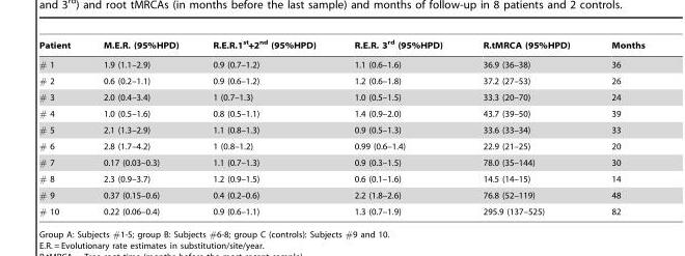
<table><thead><tr><td>Patient</td><td>M.E.R. (95%HPD)</td><td>R.E.R.1<sup>st</sup>+2<sup>nd</sup> (95%HPD)</td><td>R.E.R. 3<sup>rd</sup> (95%HPD)</td><td>R.tMRCA (95%HPD)</td><td>Months</td></tr></thead><tbody><tr><td># 1</td><td>1.9 (1.1–2.9)</td><td>0.9 (0.7–1.2)</td><td>1.1 (0.6–1.6)</td><td>36.9 (36–38)</td><td>36</td></tr><tr><td># 2</td><td>0.6 (0.2–1.1)</td><td>0.9 (0.6–1.2)</td><td>1.2 (0.6–1.8)</td><td>37.2 (27–53)</td><td>26</td></tr><tr><td># 3</td><td>2.0 (0.4–3.4)</td><td>1 (0.7–1.3)</td><td>1.0 (0.5–1.5)</td><td>33.3 (20–70)</td><td>24</td></tr><tr><td># 4</td><td>1.0 (0.5–1.6)</td><td>0.8 (0.5–1.1)</td><td>1.4 (0.9–2.0)</td><td>43.7 (39–50)</td><td>39</td></tr><tr><td># 5</td><td>2.1 (1.3–2.9)</td><td>1.1 (0.8–1.3)</td><td>0.9 (0.5–1.3)</td><td>33.6 (33–34)</td><td>33</td></tr><tr><td># 6</td><td>2.8 (1.7–4.2)</td><td>1 (0.8–1.2)</td><td>0.99 (0.6–1.4)</td><td>22.9 (21–25)</td><td>20</td></tr><tr><td># 7</td><td>0.17 (0.03–0.3)</td><td>1.1 (0.7–1.3)</td><td>0.9 (0.3–1.5)</td><td>78.0 (35–144)</td><td>30</td></tr><tr><td># 8</td><td>2.3 (0.9–3.7)</td><td>1.2 (0.9–1.5)</td><td>0.6 (0.1–1.6)</td><td>14.5 (14–15)</td><td>14</td></tr><tr><td># 9</td><td>0.37 (0.15–0.6)</td><td>0.4 (0.2–0.6)</td><td>2.2 (1.8–2.6)</td><td>76.8 (52–119)</td><td>48</td></tr><tr><td># 10</td><td>0.22 (0.06–0.4)</td><td>0.9 (0.6–1.1)</td><td>1.3 (0.7–1.9)</td><td>295.9 (137–525)</td><td>82</td></tr></tbody></table>